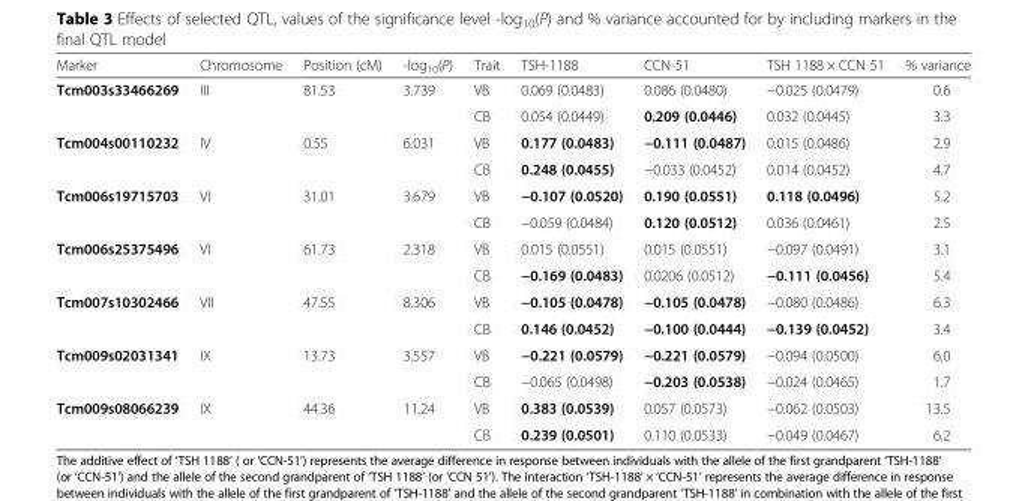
<table><thead><tr><td>Marker</td><td>Chromosome</td><td>Position (cM)</td><td>-log<sub>10</sub>(P)</td><td>Trait</td><td>TSH-1188</td><td>CCN-51</td><td>TSH 1188 × CCN 51</td><td>% variance</td></tr></thead><tbody><tr><td rowspan="2">Tcm003s33466269</td><td rowspan="2">III</td><td rowspan="2">81.53</td><td rowspan="2">3.739</td><td>VB</td><td>0.069 (0.0483)</td><td>0.086 (0.0480)</td><td>−0.025 (0.0479)</td><td>0.6</td></tr><tr><td>CB</td><td>0.054 (0.0449)</td><td>0.209 (0.0446)</td><td>0.032 (0.0445)</td><td>3.3</td></tr><tr><td rowspan="2">Tcm004s00110232</td><td rowspan="2">IV</td><td rowspan="2">0.55</td><td rowspan="2">6.031</td><td>VB</td><td>0.177 (0.0483)</td><td>−0.111 (0.0487)</td><td>0.015 (0.0486)</td><td>2.9</td></tr><tr><td>CB</td><td>0.248 (0.0455)</td><td>−0.033 (0.0452)</td><td>0.014 (0.0452)</td><td>4.7</td></tr><tr><td rowspan="2">Tcm006s19715703</td><td rowspan="2">VI</td><td rowspan="2">31.01</td><td rowspan="2">3.679</td><td>VB</td><td>−0.107 (0.0520)</td><td>0.190 (0.0551)</td><td>0.118 (0.0496)</td><td>5.2</td></tr><tr><td>CB</td><td>−0.059 (0.0484)</td><td>0.120 (0.0512)</td><td>0.036 (0.0461)</td><td>2.5</td></tr><tr><td rowspan="2">Tcm006s25375496</td><td rowspan="2">VI</td><td rowspan="2">61.73</td><td rowspan="2">2.318</td><td>VB</td><td>0.015 (0.0551)</td><td>0.015 (0.0551)</td><td>−0.097 (0.0491)</td><td>3.1</td></tr><tr><td>CB</td><td>−0.169 (0.0483)</td><td>0.0206 (0.0512)</td><td>−0.111 (0.0456)</td><td>5.4</td></tr><tr><td rowspan="2">Tcm007s10302466</td><td rowspan="2">VII</td><td rowspan="2">47.55</td><td rowspan="2">8.306</td><td>VB</td><td>−0.105 (0.0478)</td><td>−0.105 (0.0478)</td><td>−0.080 (0.0486)</td><td>6.3</td></tr><tr><td>CB</td><td>0.146 (0.0452)</td><td>−0.100 (0.0444)</td><td>−0.139 (0.0452)</td><td>3.4</td></tr><tr><td rowspan="2">Tcm009s02031341</td><td rowspan="2">IX</td><td rowspan="2">13.73</td><td rowspan="2">3.557</td><td>VB</td><td>−0.221 (0.0579)</td><td>−0.221 (0.0579)</td><td>−0.094 (0.0500)</td><td>6.0</td></tr><tr><td>CB</td><td>−0.065 (0.0498)</td><td>−0.203 (0.0538)</td><td>−0.024 (0.0465)</td><td>1.7</td></tr><tr><td rowspan="2">Tcm009s08066239</td><td rowspan="2">IX</td><td rowspan="2">44.36</td><td rowspan="2">11.24</td><td>VB</td><td>0.383 (0.0539)</td><td>0.057 (0.0573)</td><td>−0.062 (0.0503)</td><td>13.5</td></tr><tr><td>CB</td><td>0.239 (0.0501)</td><td>0.110 (0.0533)</td><td>−0.049 (0.0467)</td><td>6.2</td></tr></tbody></table>